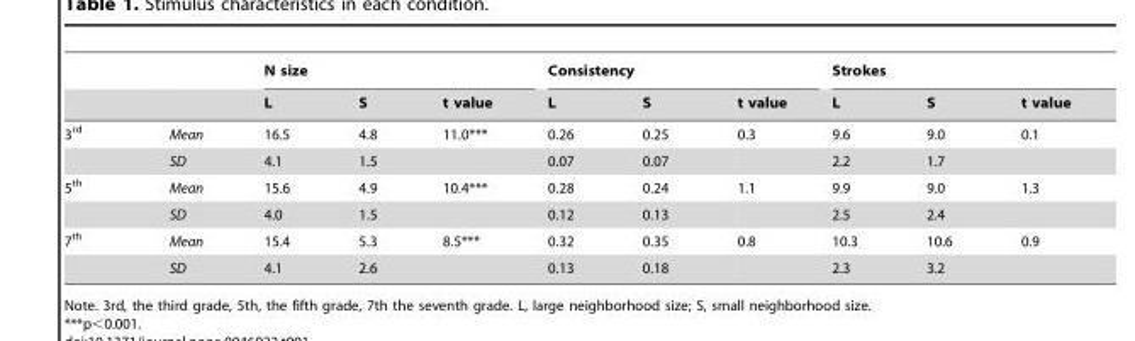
<table><thead><tr><td rowspan="2"></td><td rowspan="2"></td><td colspan="3">N size</td><td colspan="3">Consistency</td><td colspan="3">Strokes</td></tr><tr><td>L</td><td>S</td><td>t value</td><td>L</td><td>S</td><td>t value</td><td>L</td><td>S</td><td>t value</td></tr></thead><tbody><tr><td rowspan="2">3<sup>rd</sup></td><td>Mean</td><td>16.5</td><td>4.8</td><td>11.0***</td><td>0.26</td><td>0.25</td><td>0.3</td><td>9.6</td><td>9.0</td><td>0.1</td></tr><tr><td>SD</td><td>4.1</td><td>1.5</td><td></td><td>0.07</td><td>0.07</td><td></td><td>2.2</td><td>1.7</td><td></td></tr><tr><td rowspan="2">5<sup>th</sup></td><td>Mean</td><td>15.6</td><td>4.9</td><td>10.4***</td><td>0.28</td><td>0.24</td><td>1.1</td><td>9.9</td><td>9.0</td><td>1.3</td></tr><tr><td>SD</td><td>4.0</td><td>1.5</td><td></td><td>0.12</td><td>0.13</td><td></td><td>2.5</td><td>2.4</td><td></td></tr><tr><td rowspan="2">7<sup>th</sup></td><td>Mean</td><td>15.4</td><td>5.3</td><td>8.5***</td><td>0.32</td><td>0.35</td><td>0.8</td><td>10.3</td><td>10.6</td><td>0.9</td></tr><tr><td>SD</td><td>4.1</td><td>2.6</td><td></td><td>0.13</td><td>0.18</td><td></td><td>2.3</td><td>3.2</td><td></td></tr></tbody></table>